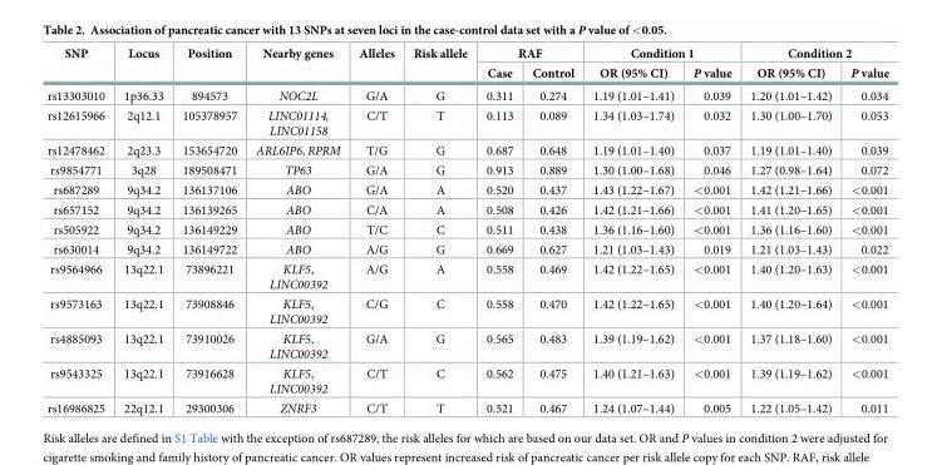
<table><thead><tr><td rowspan="2">SNP</td><td rowspan="2">Locus</td><td rowspan="2">Position</td><td rowspan="2">Nearby genes</td><td rowspan="2">Alleles</td><td rowspan="2">Risk allele</td><td colspan="2">RAF</td><td colspan="2">Condition 1</td><td colspan="2">Condition 2</td></tr><tr><td>Case</td><td>Control</td><td>OR (95% CI)</td><td>P value</td><td>OR (95% CI)</td><td>P value</td></tr></thead><tbody><tr><td>rs13303010</td><td>1p36.33</td><td>894573</td><td>NOC2L</td><td>G/A</td><td>G</td><td>0.311</td><td>0.274</td><td>1.19 (1.01–1.41)</td><td>0.039</td><td>1.20 (1.01–1.42)</td><td>0.034</td></tr><tr><td>rs12615966</td><td>2q12.1</td><td>105378957</td><td>LINC01114, LINC01158</td><td>C/T</td><td>T</td><td>0.113</td><td>0.089</td><td>1.34 (1.03–1.74)</td><td>0.032</td><td>1.30 (1.00–1.70)</td><td>0.053</td></tr><tr><td>rs12478462</td><td>2q23.3</td><td>153654720</td><td>ARL6IP6, RPRM</td><td>T/G</td><td>G</td><td>0.687</td><td>0.648</td><td>1.19 (1.01–1.40)</td><td>0.037</td><td>1.19 (1.01–1.40)</td><td>0.039</td></tr><tr><td>rs9854771</td><td>3q28</td><td>189508471</td><td>TP63</td><td>G/A</td><td>G</td><td>0.913</td><td>0.889</td><td>1.30 (1.00–1.68)</td><td>0.046</td><td>1.27 (0.98–1.64)</td><td>0.072</td></tr><tr><td>rs687289</td><td>9q34.2</td><td>136137106</td><td>ABO</td><td>G/A</td><td>A</td><td>0.520</td><td>0.437</td><td>1.43 (1.22–1.67)</td><td>&lt;0.001</td><td>1.42 (1.21–1.66)</td><td>&lt;0.001</td></tr><tr><td>rs657152</td><td>9q34.2</td><td>136139265</td><td>ABO</td><td>C/A</td><td>A</td><td>0.508</td><td>0.426</td><td>1.42 (1.21–1.66)</td><td>&lt;0.001</td><td>1.41 (1.20–1.65)</td><td>&lt;0.001</td></tr><tr><td>rs505922</td><td>9q34.2</td><td>136149229</td><td>ABO</td><td>T/C</td><td>C</td><td>0.511</td><td>0.438</td><td>1.36 (1.16–1.60)</td><td>&lt;0.001</td><td>1.36 (1.16–1.60)</td><td>&lt;0.001</td></tr><tr><td>rs630014</td><td>9q34.2</td><td>136149722</td><td>ABO</td><td>A/G</td><td>G</td><td>0.669</td><td>0.627</td><td>1.21 (1.03–1.43)</td><td>0.019</td><td>1.21 (1.03–1.43)</td><td>0.022</td></tr><tr><td>rs9564966</td><td>13q22.1</td><td>73896221</td><td>KLF5, LINC00392</td><td>A/G</td><td>A</td><td>0.558</td><td>0.469</td><td>1.42 (1.22–1.65)</td><td>&lt;0.001</td><td>1.40 (1.20–1.63)</td><td>&lt;0.001</td></tr><tr><td>rs9573163</td><td>13q22.1</td><td>73908846</td><td>KLF5, LINC00392</td><td>C/G</td><td>C</td><td>0.558</td><td>0.470</td><td>1.42 (1.22–1.65)</td><td>&lt;0.001</td><td>1.40 (1.20–1.64)</td><td>&lt;0.001</td></tr><tr><td>rs4885093</td><td>13q22.1</td><td>73910026</td><td>KLF5, LINC00392</td><td>G/A</td><td>G</td><td>0.565</td><td>0.483</td><td>1.39 (1.19–1.62)</td><td>&lt;0.001</td><td>1.37 (1.18–1.60)</td><td>&lt;0.001</td></tr><tr><td>rs9543325</td><td>13q22.1</td><td>73916628</td><td>KLF5, LINC00392</td><td>C/T</td><td>C</td><td>0.562</td><td>0.475</td><td>1.40 (1.21–1.63)</td><td>&lt;0.001</td><td>1.39 (1.19–1.62)</td><td>&lt;0.001</td></tr><tr><td>rs16986825</td><td>22q12.1</td><td>29300306</td><td>ZNRF3</td><td>C/T</td><td>T</td><td>0.521</td><td>0.467</td><td>1.24 (1.07–1.44)</td><td>0.005</td><td>1.22 (1.05–1.42)</td><td>0.011</td></tr></tbody></table>